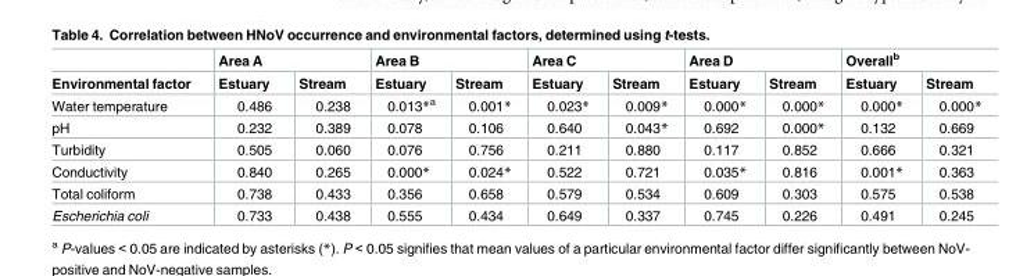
<table><thead><tr><td rowspan="2">Environmental factor</td><td colspan="2">Area A</td><td colspan="2">Area B</td><td colspan="2">Area C</td><td colspan="2">Area D</td><td colspan="2">Overall<sup>b</sup></td></tr><tr><td>Estuary</td><td>Stream</td><td>Estuary</td><td>Stream</td><td>Estuary</td><td>Stream</td><td>Estuary</td><td>Stream</td><td>Estuary</td><td>Stream</td></tr></thead><tbody><tr><td>Water temperature</td><td>0.486</td><td>0.238</td><td>0.013*<sup>a</sup></td><td>0.001*</td><td>0.023*</td><td>0.009*</td><td>0.000*</td><td>0.000*</td><td>0.000*</td><td>0.000*</td></tr><tr><td>pH</td><td>0.232</td><td>0.389</td><td>0.078</td><td>0.106</td><td>0.640</td><td>0.043*</td><td>0.692</td><td>0.000*</td><td>0.132</td><td>0.669</td></tr><tr><td>Turbidity</td><td>0.505</td><td>0.060</td><td>0.076</td><td>0.756</td><td>0.211</td><td>0.880</td><td>0.117</td><td>0.852</td><td>0.666</td><td>0.321</td></tr><tr><td>Conductivity</td><td>0.840</td><td>0.265</td><td>0.000*</td><td>0.024*</td><td>0.522</td><td>0.721</td><td>0.035*</td><td>0.816</td><td>0.001*</td><td>0.363</td></tr><tr><td>Total coliform</td><td>0.738</td><td>0.433</td><td>0.356</td><td>0.658</td><td>0.579</td><td>0.534</td><td>0.609</td><td>0.303</td><td>0.575</td><td>0.538</td></tr><tr><td>Escherichia coli</td><td>0.733</td><td>0.438</td><td>0.555</td><td>0.434</td><td>0.649</td><td>0.337</td><td>0.745</td><td>0.226</td><td>0.491</td><td>0.245</td></tr></tbody></table>